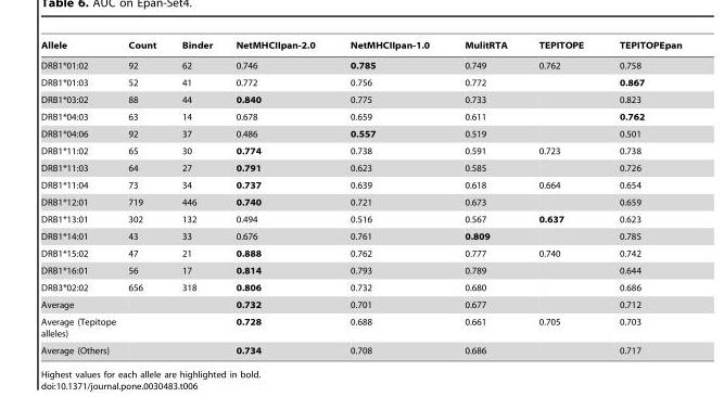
<table><thead><tr><td>Allele</td><td>Count</td><td>Binder</td><td>NetMHCIIpan-2.0</td><td>NetMHCIIpan-1.0</td><td>MulitRTA</td><td>TEPITOPE</td><td>TEPITOPEpan</td></tr></thead><tbody><tr><td>DRB1*01:02</td><td>92</td><td>62</td><td>0.746</td><td>0.785</td><td>0.749</td><td>0.762</td><td>0.758</td></tr><tr><td>DRB1*01:03</td><td>52</td><td>41</td><td>0.772</td><td>0.756</td><td>0.772</td><td></td><td>0.867</td></tr><tr><td>DRB1*03:02</td><td>88</td><td>44</td><td>0.840</td><td>0.775</td><td>0.733</td><td></td><td>0.823</td></tr><tr><td>DRB1*04:03</td><td>63</td><td>14</td><td>0.678</td><td>0.659</td><td>0.611</td><td></td><td>0.762</td></tr><tr><td>DRB1*04:06</td><td>92</td><td>37</td><td>0.486</td><td>0.557</td><td>0.519</td><td></td><td>0.501</td></tr><tr><td>DRB1*11:02</td><td>65</td><td>30</td><td>0.774</td><td>0.738</td><td>0.591</td><td>0.723</td><td>0.738</td></tr><tr><td>DRB1*11:03</td><td>64</td><td>27</td><td>0.791</td><td>0.623</td><td>0.585</td><td></td><td>0.726</td></tr><tr><td>DRB1*11:04</td><td>73</td><td>34</td><td>0.737</td><td>0.639</td><td>0.618</td><td>0.664</td><td>0.654</td></tr><tr><td>DRB1*12:01</td><td>719</td><td>446</td><td>0.740</td><td>0.721</td><td>0.673</td><td></td><td>0.659</td></tr><tr><td>DRB1*13:01</td><td>302</td><td>132</td><td>0.494</td><td>0.516</td><td>0.567</td><td>0.637</td><td>0.623</td></tr><tr><td>DRB1*14:01</td><td>43</td><td>33</td><td>0.676</td><td>0.761</td><td>0.809</td><td></td><td>0.785</td></tr><tr><td>DRB1*15:02</td><td>47</td><td>21</td><td>0.888</td><td>0.762</td><td>0.777</td><td>0.740</td><td>0.742</td></tr><tr><td>DRB1*16:01</td><td>56</td><td>17</td><td>0.814</td><td>0.793</td><td>0.789</td><td></td><td>0.644</td></tr><tr><td>DRB3*02:02</td><td>656</td><td>318</td><td>0.806</td><td>0.732</td><td>0.680</td><td></td><td>0.686</td></tr><tr><td>Average</td><td></td><td></td><td>0.732</td><td>0.701</td><td>0.677</td><td></td><td>0.712</td></tr><tr><td>Average (Tepitope alleles)</td><td></td><td></td><td>0.728</td><td>0.688</td><td>0.661</td><td>0.705</td><td>0.703</td></tr><tr><td>Average (Others)</td><td></td><td></td><td>0.734</td><td>0.708</td><td>0.686</td><td></td><td>0.717</td></tr></tbody></table>